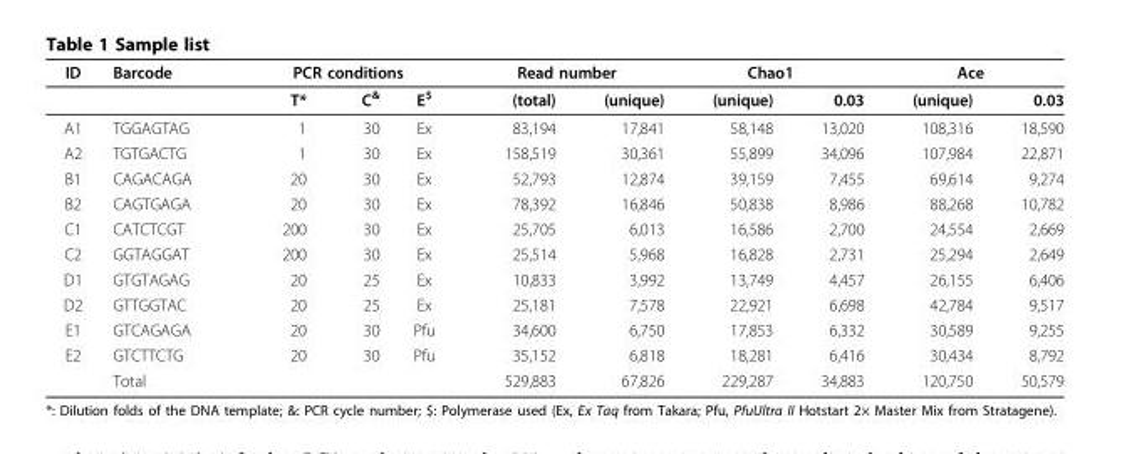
<table><thead><tr><td rowspan="2">ID</td><td rowspan="2">Barcode</td><td colspan="3">PCR conditions</td><td colspan="2">Read number</td><td colspan="2">Chao1</td><td colspan="2">Ace</td></tr><tr><td>T*</td><td>C<sup>&amp;</sup></td><td>E<sup>$</sup></td><td>(total)</td><td>(unique)</td><td>(unique)</td><td>0.03</td><td>(unique)</td><td>0.03</td></tr></thead><tbody><tr><td>A1</td><td>TGGAGTAG</td><td>1</td><td>30</td><td>Ex</td><td>83,194</td><td>17,841</td><td>58,148</td><td>13,020</td><td>108,316</td><td>18,590</td></tr><tr><td>A2</td><td>TGTGACTG</td><td>1</td><td>30</td><td>Ex</td><td>158,519</td><td>30,361</td><td>55,899</td><td>34,096</td><td>107,984</td><td>22,871</td></tr><tr><td>B1</td><td>CAGACAGA</td><td>20</td><td>30</td><td>Ex</td><td>52,793</td><td>12,874</td><td>39,159</td><td>7,455</td><td>69,614</td><td>9,274</td></tr><tr><td>B2</td><td>CAGTGAGA</td><td>20</td><td>30</td><td>Ex</td><td>78,392</td><td>16,846</td><td>50,838</td><td>8,986</td><td>88,268</td><td>10,782</td></tr><tr><td>C1</td><td>CATCTCGT</td><td>200</td><td>30</td><td>Ex</td><td>25,705</td><td>6,013</td><td>16,586</td><td>2,700</td><td>24,554</td><td>2,669</td></tr><tr><td>C2</td><td>GGTAGGAT</td><td>200</td><td>30</td><td>Ex</td><td>25,514</td><td>5,968</td><td>16,828</td><td>2,731</td><td>25,294</td><td>2,649</td></tr><tr><td>D1</td><td>GTGTAGAG</td><td>20</td><td>25</td><td>Ex</td><td>10,833</td><td>3,992</td><td>13,749</td><td>4,457</td><td>26,155</td><td>6,406</td></tr><tr><td>D2</td><td>GTTGGTAC</td><td>20</td><td>25</td><td>Ex</td><td>25,181</td><td>7,578</td><td>22,921</td><td>6,698</td><td>42,784</td><td>9,517</td></tr><tr><td>E1</td><td>GTCAGAGA</td><td>20</td><td>30</td><td>Pfu</td><td>34,600</td><td>6,750</td><td>17,853</td><td>6,332</td><td>30,589</td><td>9,255</td></tr><tr><td rowspan="2">E2</td><td>GTCTTCTG</td><td>20</td><td>30</td><td>Pfu</td><td>35,152</td><td>6,818</td><td>18,281</td><td>6,416</td><td>30,434</td><td>8,792</td></tr><tr><td>Total</td><td></td><td></td><td></td><td>529,883</td><td>67,826</td><td>229,287</td><td>34,883</td><td>120,750</td><td>50,579</td></tr></tbody></table>